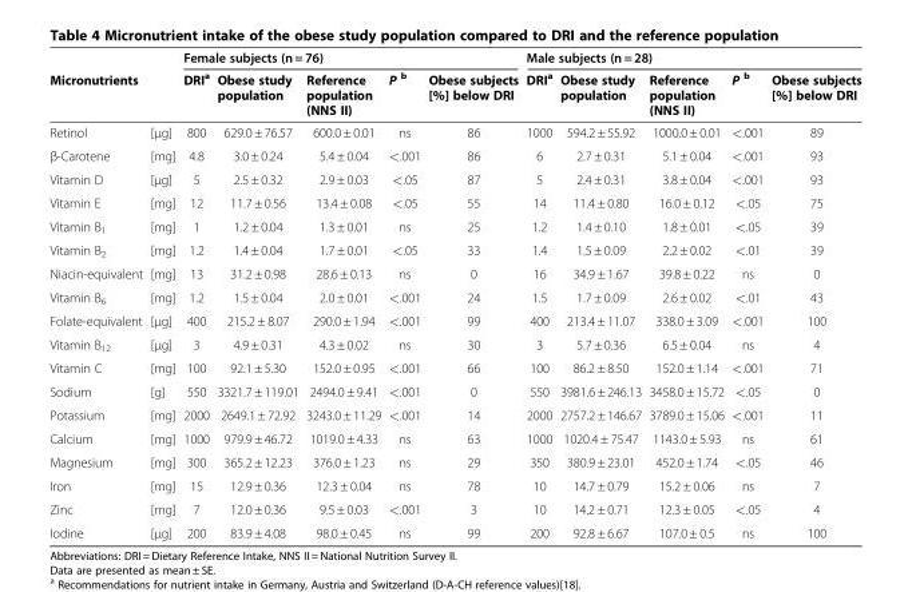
<table><thead><tr><td></td><td></td><td colspan="5">Female subjects (n = 76)</td><td colspan="5">Male subjects (n = 28)</td></tr><tr><td colspan="2">Micronutrients</td><td>DRI<sup>a</sup></td><td>Obese study population</td><td>Reference population (NNS II)</td><td>P <sup>b</sup></td><td>Obese subjects [%] below DRI</td><td>DRI<sup>a</sup></td><td>Obese study population</td><td>Reference population (NNS II)</td><td>P <sup>b</sup></td><td>Obese subjects [%] below DRI</td></tr></thead><tbody><tr><td>Retinol</td><td>[μg]</td><td>800</td><td>629.0 ± 76.57</td><td>600.0 ± 0.01</td><td>ns</td><td>86</td><td>1000</td><td>594.2 ± 55.92</td><td>1000.0 ± 0.01</td><td>&lt;.001</td><td>89</td></tr><tr><td>β-Carotene</td><td>[mg]</td><td>4.8</td><td>3.0 ± 0.24</td><td>5.4 ± 0.04</td><td>&lt;.001</td><td>86</td><td>6</td><td>2.7 ± 0.31</td><td>5.1 ± 0.04</td><td>&lt;.001</td><td>93</td></tr><tr><td>Vitamin D</td><td>[μg]</td><td>5</td><td>2.5 ± 0.32</td><td>2.9 ± 0.03</td><td>&lt;.05</td><td>87</td><td>5</td><td>2.4 ± 0.31</td><td>3.8 ± 0.04</td><td>&lt;.001</td><td>93</td></tr><tr><td>Vitamin E</td><td>[mg]</td><td>12</td><td>11.7 ± 0.56</td><td>13.4 ± 0.08</td><td>&lt;.05</td><td>55</td><td>14</td><td>11.4 ± 0.80</td><td>16.0 ± 0.12</td><td>&lt;.05</td><td>75</td></tr><tr><td>Vitamin B<sub>1</sub></td><td>[mg]</td><td>1</td><td>1.2 ± 0.04</td><td>1.3 ± 0.01</td><td>ns</td><td>25</td><td>1.2</td><td>1.4 ± 0.10</td><td>1.8 ± 0.01</td><td>&lt;.05</td><td>39</td></tr><tr><td>Vitamin B<sub>2</sub></td><td>[mg]</td><td>1.2</td><td>1.4 ± 0.04</td><td>1.7 ± 0.01</td><td>&lt;.05</td><td>33</td><td>1.4</td><td>1.5 ± 0.09</td><td>2.2 ± 0.02</td><td>&lt;.01</td><td>39</td></tr><tr><td>Niacin-equivalent</td><td>[mg]</td><td>13</td><td>31.2 ± 0.98</td><td>28.6 ± 0.13</td><td>ns</td><td>0</td><td>16</td><td>34.9 ± 1.67</td><td>39.8 ± 0.22</td><td>ns</td><td>0</td></tr><tr><td>Vitamin B<sub>6</sub></td><td>[mg]</td><td>1.2</td><td>1.5 ± 0.04</td><td>2.0 ± 0.01</td><td>&lt;.001</td><td>24</td><td>1.5</td><td>1.7 ± 0.09</td><td>2.6 ± 0.02</td><td>&lt;.01</td><td>43</td></tr><tr><td>Folate-equivalent</td><td>[μg]</td><td>400</td><td>215.2 ± 8.07</td><td>290.0 ± 1.94</td><td>&lt;.001</td><td>99</td><td>400</td><td>213.4 ± 11.07</td><td>338.0 ± 3.09</td><td>&lt;.001</td><td>100</td></tr><tr><td>Vitamin B<sub>12</sub></td><td>[μg]</td><td>3</td><td>4.9 ± 0.31</td><td>4.3 ± 0.02</td><td>ns</td><td>30</td><td>3</td><td>5.7 ± 0.36</td><td>6.5 ± 0.04</td><td>ns</td><td>4</td></tr><tr><td>Vitamin C</td><td>[mg]</td><td>100</td><td>92.1 ± 5.30</td><td>152.0 ± 0.95</td><td>&lt;.001</td><td>66</td><td>100</td><td>86.2 ± 8.50</td><td>152.0 ± 1.14</td><td>&lt;.001</td><td>71</td></tr><tr><td>Sodium</td><td>[g]</td><td>550</td><td>3321.7 ± 119.01</td><td>2494.0 ± 9.41</td><td>&lt;.001</td><td>0</td><td>550</td><td>3981.6 ± 246.13</td><td>3458.0 ± 15.72</td><td>&lt;.05</td><td>0</td></tr><tr><td>Potassium</td><td>[mg]</td><td>2000</td><td>2649.1 ± 72.92</td><td>3243.0 ± 11.29</td><td>&lt;.001</td><td>14</td><td>2000</td><td>2757.2 ± 146.67</td><td>3789.0 ± 15.06</td><td>&lt;.001</td><td>11</td></tr><tr><td>Calcium</td><td>[mg]</td><td>1000</td><td>979.9 ± 46.72</td><td>1019.0 ± 4.33</td><td>ns</td><td>63</td><td>1000</td><td>1020.4 ± 75.47</td><td>1143.0 ± 5.93</td><td>ns</td><td>61</td></tr><tr><td>Magnesium</td><td>[mg]</td><td>300</td><td>365.2 ± 12.23</td><td>376.0 ± 1.23</td><td>ns</td><td>29</td><td>350</td><td>380.9 ± 23.01</td><td>452.0 ± 1.74</td><td>&lt;.05</td><td>46</td></tr><tr><td>Iron</td><td>[mg]</td><td>15</td><td>12.9 ± 0.36</td><td>12.3 ± 0.04</td><td>ns</td><td>78</td><td>10</td><td>14.7 ± 0.79</td><td>15.2 ± 0.06</td><td>ns</td><td>7</td></tr><tr><td>Zinc</td><td>[mg]</td><td>7</td><td>12.0 ± 0.36</td><td>9.5 ± 0.03</td><td>&lt;.001</td><td>3</td><td>10</td><td>14.2 ± 0.71</td><td>12.3 ± 0.05</td><td>&lt;.05</td><td>4</td></tr><tr><td>Iodine</td><td>[μg]</td><td>200</td><td>83.9 ± 4.08</td><td>98.0 ± 0.45</td><td>ns</td><td>99</td><td>200</td><td>92.8 ± 6.67</td><td>107.0 ± 0.5</td><td>ns</td><td>100</td></tr></tbody></table>